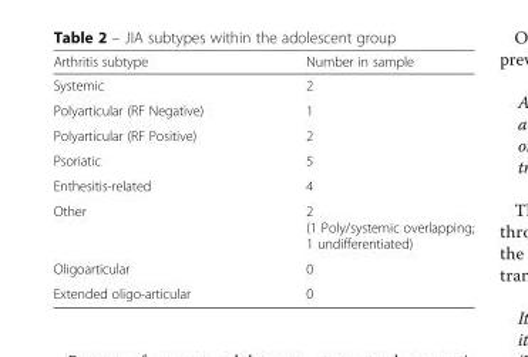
<table><thead><tr><td>Arthritis subtype</td><td>Number in sample</td></tr></thead><tbody><tr><td>Systemic</td><td>2</td></tr><tr><td>Polyarticular (RF Negative)</td><td>1</td></tr><tr><td>Polyarticular (RF Positive)</td><td>2</td></tr><tr><td>Psoriatic</td><td>5</td></tr><tr><td>Enthesitis-related</td><td>4</td></tr><tr><td>Other</td><td>2 (1 Poly/systemic overlapping; 1 undifferentiated)</td></tr><tr><td>Oligoarticular</td><td>0</td></tr><tr><td>Extended oligo-articular</td><td>0</td></tr></tbody></table>